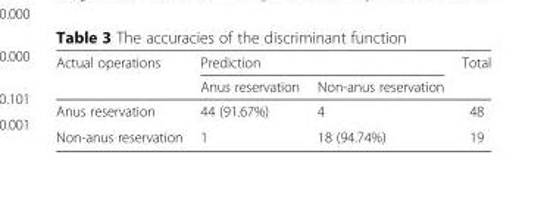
<table><thead><tr><td rowspan="2">Actual operations</td><td colspan="2">Prediction</td><td rowspan="2">Total</td></tr><tr><td>Anus reservation</td><td>Non-anus reservation</td></tr></thead><tbody><tr><td>Anus reservation</td><td>44 (91.67%)</td><td>4</td><td>48</td></tr><tr><td>Non-anus reservation</td><td>1</td><td>18 (94.74%)</td><td>19</td></tr></tbody></table>